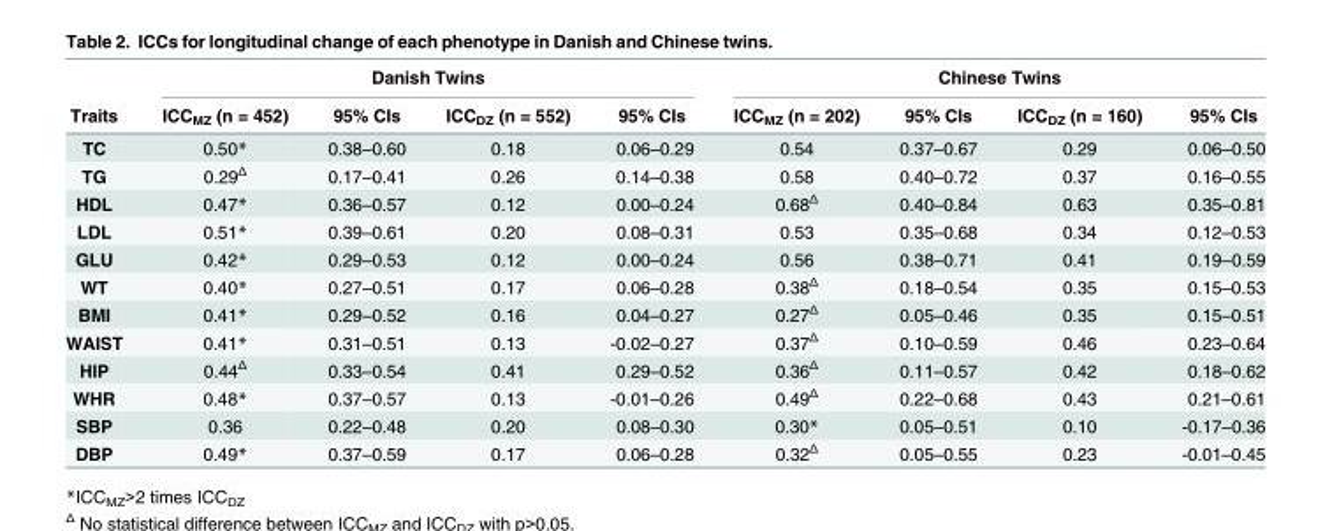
<table><thead><tr><td rowspan="2">Traits</td><td colspan="4">Danish Twins</td><td colspan="4">Chinese Twins</td></tr><tr><td>ICC<sub>MZ</sub> (n = 452)</td><td>95% CIs</td><td>ICC<sub>DZ</sub> (n = 552)</td><td>95% CIs</td><td>ICC<sub>MZ</sub> (n = 202)</td><td>95% CIs</td><td>ICC<sub>DZ</sub> (n = 160)</td><td>95% CIs</td></tr></thead><tbody><tr><td>TC</td><td>0.50*</td><td>0.38–0.60</td><td>0.18</td><td>0.06–0.29</td><td>0.54</td><td>0.37–0.67</td><td>0.29</td><td>0.06–0.50</td></tr><tr><td>TG</td><td>0.29<sup>Δ</sup></td><td>0.17–0.41</td><td>0.26</td><td>0.14–0.38</td><td>0.58</td><td>0.40–0.72</td><td>0.37</td><td>0.16–0.55</td></tr><tr><td>HDL</td><td>0.47*</td><td>0.36–0.57</td><td>0.12</td><td>0.00–0.24</td><td>0.68<sup>Δ</sup></td><td>0.40–0.84</td><td>0.63</td><td>0.35–0.81</td></tr><tr><td>LDL</td><td>0.51*</td><td>0.39–0.61</td><td>0.20</td><td>0.08–0.31</td><td>0.53</td><td>0.35–0.68</td><td>0.34</td><td>0.12–0.53</td></tr><tr><td>GLU</td><td>0.42*</td><td>0.29–0.53</td><td>0.12</td><td>0.00–0.24</td><td>0.56</td><td>0.38–0.71</td><td>0.41</td><td>0.19–0.59</td></tr><tr><td>WT</td><td>0.40*</td><td>0.27–0.51</td><td>0.17</td><td>0.06–0.28</td><td>0.38<sup>Δ</sup></td><td>0.18–0.54</td><td>0.35</td><td>0.15–0.53</td></tr><tr><td>BMI</td><td>0.41*</td><td>0.29–0.52</td><td>0.16</td><td>0.04–0.27</td><td>0.27<sup>Δ</sup></td><td>0.05–0.46</td><td>0.35</td><td>0.15–0.51</td></tr><tr><td>WAIST</td><td>0.41*</td><td>0.31–0.51</td><td>0.13</td><td>-0.02–0.27</td><td>0.37<sup>Δ</sup></td><td>0.10–0.59</td><td>0.46</td><td>0.23–0.64</td></tr><tr><td>HIP</td><td>0.44<sup>Δ</sup></td><td>0.33–0.54</td><td>0.41</td><td>0.29–0.52</td><td>0.36<sup>Δ</sup></td><td>0.11–0.57</td><td>0.42</td><td>0.18–0.62</td></tr><tr><td>WHR</td><td>0.48*</td><td>0.37–0.57</td><td>0.13</td><td>-0.01–0.26</td><td>0.49<sup>Δ</sup></td><td>0.22–0.68</td><td>0.43</td><td>0.21–0.61</td></tr><tr><td>SBP</td><td>0.36</td><td>0.22–0.48</td><td>0.20</td><td>0.08–0.30</td><td>0.30*</td><td>0.05–0.51</td><td>0.10</td><td>-0.17–0.36</td></tr><tr><td>DBP</td><td>0.49*</td><td>0.37–0.59</td><td>0.17</td><td>0.06–0.28</td><td>0.32<sup>Δ</sup></td><td>0.05–0.55</td><td>0.23</td><td>-0.01–0.45</td></tr></tbody></table>